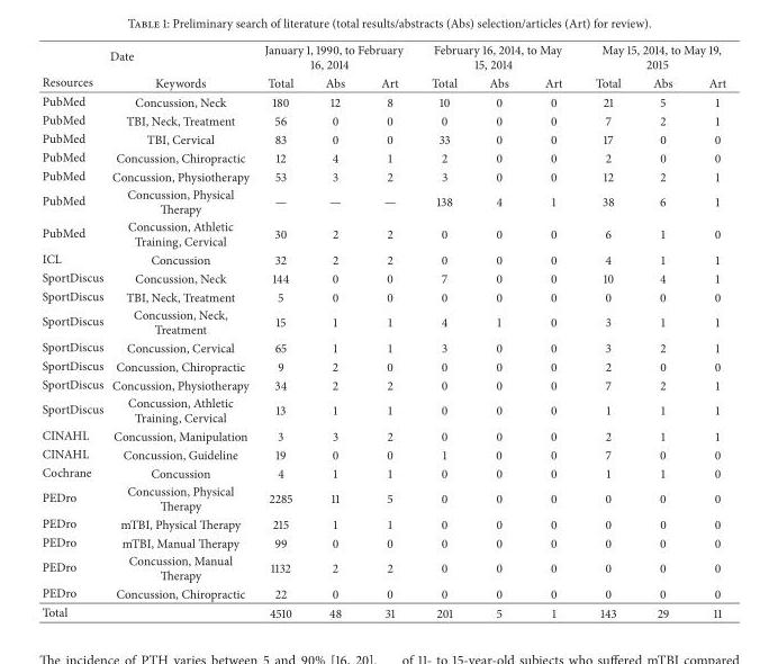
<table><thead><tr><td colspan="2">Date</td><td colspan="3">January 1, 1990, to February 16, 2014</td><td colspan="3">February 16, 2014, to May 15, 2014</td><td colspan="3">May 15, 2014, to May 19, 2015</td></tr><tr><td>Resources</td><td>Keywords</td><td>Total</td><td>Abs</td><td>Art</td><td>Total</td><td>Abs</td><td>Art</td><td>Total</td><td>Abs</td><td>Art</td></tr></thead><tbody><tr><td>PubMed</td><td>Concussion, Neck</td><td>180</td><td>12</td><td>8</td><td>10</td><td>0</td><td>0</td><td>21</td><td>5</td><td>1</td></tr><tr><td>PubMed</td><td>TBI, Neck, Treatment</td><td>56</td><td>0</td><td>0</td><td>0</td><td>0</td><td>0</td><td>7</td><td>2</td><td>1</td></tr><tr><td>PubMed</td><td>TBI, Cervical</td><td>83</td><td>0</td><td>0</td><td>33</td><td>0</td><td>0</td><td>17</td><td>0</td><td>0</td></tr><tr><td>PubMed</td><td>Concussion, Chiropractic</td><td>12</td><td>4</td><td>1</td><td>2</td><td>0</td><td>0</td><td>2</td><td>0</td><td>0</td></tr><tr><td>PubMed</td><td>Concussion, Physiotherapy</td><td>53</td><td>3</td><td>2</td><td>3</td><td>0</td><td>0</td><td>12</td><td>2</td><td>1</td></tr><tr><td>PubMed</td><td>Concussion, Physical Therapy</td><td>—</td><td>—</td><td>—</td><td>138</td><td>4</td><td>1</td><td>38</td><td>6</td><td>1</td></tr><tr><td>PubMed</td><td>Concussion, Athletic Training, Cervical</td><td>30</td><td>2</td><td>2</td><td>0</td><td>0</td><td>0</td><td>6</td><td>1</td><td>0</td></tr><tr><td>ICL</td><td>Concussion</td><td>32</td><td>2</td><td>2</td><td>0</td><td>0</td><td>0</td><td>4</td><td>1</td><td>1</td></tr><tr><td>SportDiscus</td><td>Concussion, Neck</td><td>144</td><td>0</td><td>0</td><td>7</td><td>0</td><td>0</td><td>10</td><td>4</td><td>1</td></tr><tr><td>SportDiscus</td><td>TBI, Neck, Treatment</td><td>5</td><td>0</td><td>0</td><td>0</td><td>0</td><td>0</td><td>0</td><td>0</td><td>0</td></tr><tr><td>SportDiscus</td><td>Concussion, Neck, Treatment</td><td>15</td><td>1</td><td>1</td><td>4</td><td>1</td><td>0</td><td>3</td><td>1</td><td>1</td></tr><tr><td>SportDiscus</td><td>Concussion, Cervical</td><td>65</td><td>1</td><td>1</td><td>3</td><td>0</td><td>0</td><td>3</td><td>2</td><td>1</td></tr><tr><td>SportDiscus</td><td>Concussion, Chiropractic</td><td>9</td><td>2</td><td>0</td><td>0</td><td>0</td><td>0</td><td>2</td><td>0</td><td>0</td></tr><tr><td>SportDiscus</td><td>Concussion, Physiotherapy</td><td>34</td><td>2</td><td>2</td><td>0</td><td>0</td><td>0</td><td>7</td><td>2</td><td>1</td></tr><tr><td>SportDiscus</td><td>Concussion, Athletic Training, Cervical</td><td>13</td><td>1</td><td>1</td><td>0</td><td>0</td><td>0</td><td>1</td><td>1</td><td>1</td></tr><tr><td>CINAHL</td><td>Concussion, Manipulation</td><td>3</td><td>3</td><td>2</td><td>0</td><td>0</td><td>0</td><td>2</td><td>1</td><td>1</td></tr><tr><td>CINAHL</td><td>Concussion, Guideline</td><td>19</td><td>0</td><td>0</td><td>1</td><td>0</td><td>0</td><td>7</td><td>0</td><td>0</td></tr><tr><td>Cochrane</td><td>Concussion</td><td>4</td><td>1</td><td>1</td><td>0</td><td>0</td><td>0</td><td>1</td><td>1</td><td>0</td></tr><tr><td>PEDro</td><td>Concussion, Physical Therapy</td><td>2285</td><td>11</td><td>5</td><td>0</td><td>0</td><td>0</td><td>0</td><td>0</td><td>0</td></tr><tr><td>PEDro</td><td>mTBI, Physical Therapy</td><td>215</td><td>1</td><td>1</td><td>0</td><td>0</td><td>0</td><td>0</td><td>0</td><td>0</td></tr><tr><td>PEDro</td><td>mTBI, Manual Therapy</td><td>99</td><td>0</td><td>0</td><td>0</td><td>0</td><td>0</td><td>0</td><td>0</td><td>0</td></tr><tr><td>PEDro</td><td>Concussion, Manual Therapy</td><td>1132</td><td>2</td><td>2</td><td>0</td><td>0</td><td>0</td><td>0</td><td>0</td><td>0</td></tr><tr><td>PEDro</td><td>Concussion, Chiropractic</td><td>22</td><td>0</td><td>0</td><td>0</td><td>0</td><td>0</td><td>0</td><td>0</td><td>0</td></tr><tr><td>Total</td><td></td><td>4510</td><td>48</td><td>31</td><td>201</td><td>5</td><td>1</td><td>143</td><td>29</td><td>11</td></tr></tbody></table>